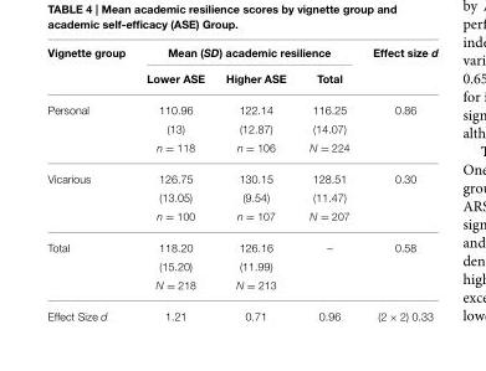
<table><thead><tr><td rowspan="2">Vignette group</td><td colspan="3">Mean (SD) academic resilience</td><td rowspan="2">Effect size d</td></tr><tr><td>Lower ASE</td><td>Higher ASE</td><td>Total</td></tr></thead><tbody><tr><td rowspan="3">Personal</td><td>110.96</td><td>122.14</td><td>116.25</td><td>0.86</td></tr><tr><td>(13)</td><td>(12.87)</td><td>(14.07)</td><td></td></tr><tr><td>n = 118</td><td>n = 106</td><td>N = 224</td><td></td></tr><tr><td rowspan="3">Vicarious</td><td>126.75</td><td>130.15</td><td>128.51</td><td>0.30</td></tr><tr><td>(13.05)</td><td>(9.54)</td><td>(11.47)</td><td></td></tr><tr><td>n = 100</td><td>n = 107</td><td>N = 207</td><td></td></tr><tr><td rowspan="3">Total</td><td>118.20</td><td>126.16</td><td>–</td><td>0.58</td></tr><tr><td>(15.20)</td><td>(11.99)</td><td></td><td></td></tr><tr><td>N = 218</td><td>N = 213</td><td></td><td></td></tr><tr><td>Effect Size d</td><td>1.21</td><td>0.71</td><td>0.96</td><td>(2 × 2) 0.33</td></tr></tbody></table>